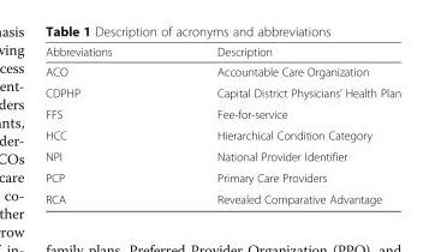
<table><thead><tr><td>Abbreviations</td><td>Description</td></tr></thead><tbody><tr><td>ACO</td><td>Accountable Care Organization</td></tr><tr><td>CDPHP</td><td>Capital District Physicians’ Health Plan</td></tr><tr><td>FFS</td><td>Fee-for-service</td></tr><tr><td>HCC</td><td>Hierarchical Condition Category</td></tr><tr><td>NPI</td><td>National Provider Identifier</td></tr><tr><td>PCP</td><td>Primary Care Providers</td></tr><tr><td>RCA</td><td>Revealed Comparative Advantage</td></tr></tbody></table>